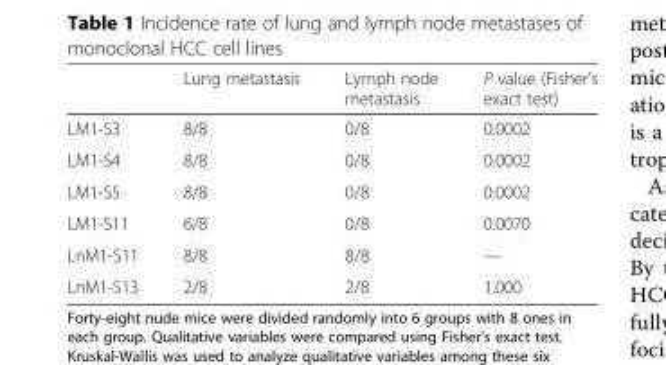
<table><thead><tr><td></td><td>Lung metastasis</td><td>Lymph node metastasis</td><td>P value (Fisher’s exact test)</td></tr></thead><tbody><tr><td>LM1-S3</td><td>8/8</td><td>0/8</td><td>0.0002</td></tr><tr><td>LM1-S4</td><td>8/8</td><td>0/8</td><td>0.0002</td></tr><tr><td>LM1-S5</td><td>8/8</td><td>0/8</td><td>0.0002</td></tr><tr><td>LM1-S11</td><td>6/8</td><td>0/8</td><td>0.0070</td></tr><tr><td>LnM1-S11</td><td>8/8</td><td>8/8</td><td>—</td></tr><tr><td>LnM1-S13</td><td>2/8</td><td>2/8</td><td>1.000</td></tr></tbody></table>